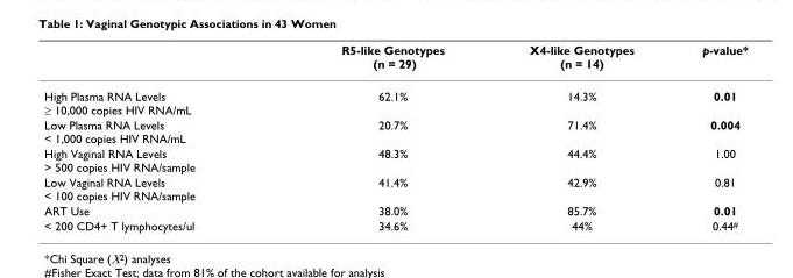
<table><thead><tr><td></td><td>R5-like Genotypes (n = 29)</td><td>X4-like Genotypes (n = 14)</td><td>p-value*</td></tr></thead><tbody><tr><td>High Plasma RNA Levels ≥ 10,000 copies HIV RNA/mL</td><td>62.1%</td><td>14.3%</td><td>0.01</td></tr><tr><td>Low Plasma RNA Levels &lt; 1,000 copies HIV RNA/mL</td><td>20.7%</td><td>71.4%</td><td>0.004</td></tr><tr><td>High Vaginal RNA Levels &gt; 500 copies HIV RNA/sample</td><td>48.3%</td><td>44.4%</td><td>1.00</td></tr><tr><td>Low Vaginal RNA Levels &lt; 100 copies HIV RNA/sample</td><td>41.4%</td><td>42.9%</td><td>0.81</td></tr><tr><td>ART Use</td><td>38.0%</td><td>85.7%</td><td>0.01</td></tr><tr><td>&lt; 200 CD4+ T lymphocytes/ul</td><td>34.6%</td><td>44%</td><td>0.44<sup>#</sup></td></tr></tbody></table>